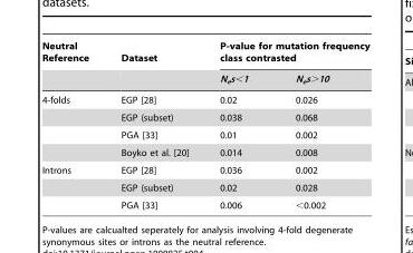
<table><thead><tr><td rowspan="2">Neutral Reference</td><td rowspan="2">Dataset</td><td colspan="2">P-value for mutation frequency class contrasted</td></tr><tr><td>N<sub>e</sub>s&lt;1</td><td>N<sub>e</sub>s&gt;10</td></tr></thead><tbody><tr><td rowspan="4">4-folds</td><td>EGP [28]</td><td>0.02</td><td>0.026</td></tr><tr><td>EGP (subset)</td><td>0.038</td><td>0.068</td></tr><tr><td>PGA [33]</td><td>0.01</td><td>0.002</td></tr><tr><td>Boyko et al. [20]</td><td>0.014</td><td>0.008</td></tr><tr><td rowspan="3">Introns</td><td>EGP [28]</td><td>0.036</td><td>0.002</td></tr><tr><td>EGP (subset)</td><td>0.02</td><td>0.028</td></tr><tr><td>PGA [33]</td><td>0.006</td><td>&lt;0.002</td></tr></tbody></table>